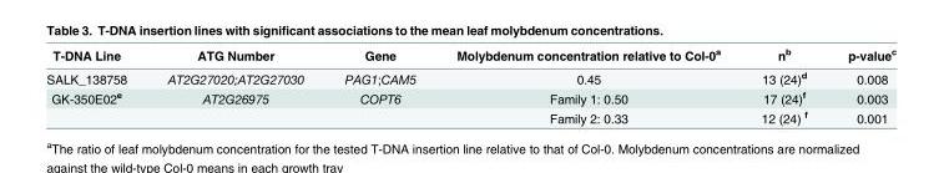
<table><thead><tr><td>T-DNA Line</td><td>ATG Number</td><td>Gene</td><td>Molybdenum concentration relative to Col-0<sup>a</sup></td><td>n<sup>b</sup></td><td>p-value<sup>c</sup></td></tr></thead><tbody><tr><td>SALK_138758</td><td>AT2G27020;AT2G27030</td><td>PAG1;CAM5</td><td>0.45</td><td>13 (24)<sup>d</sup></td><td>0.008</td></tr><tr><td rowspan="2">GK-350E02<sup>e</sup></td><td>AT2G26975</td><td>COPT6</td><td>Family 1: 0.50</td><td>17 (24)<sup>f</sup></td><td>0.003</td></tr><tr><td></td><td></td><td>Family 2: 0.33</td><td>12 (24) <sup>f</sup></td><td>0.001</td></tr></tbody></table>